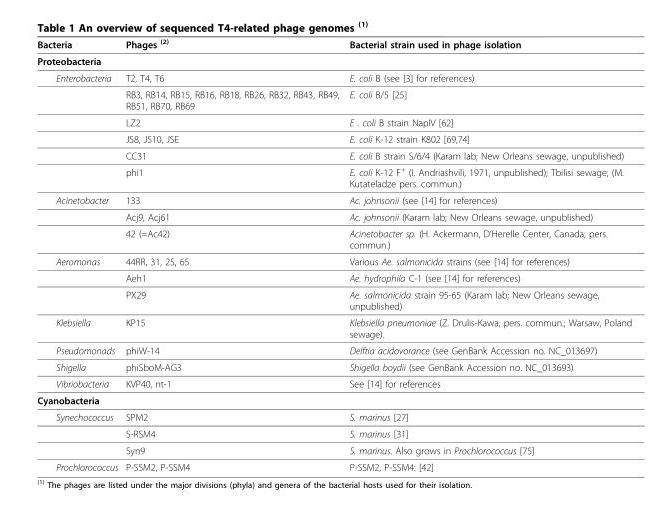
<table><thead><tr><td>Bacteria</td><td>Phages <sup>(2)</sup></td><td>Bacterial strain used in phage isolation</td></tr></thead><tbody><tr><td colspan="3">Proteobacteria</td></tr><tr><td rowspan="6">Enterobacteria</td><td>T2, T4, T6</td><td>E. coli B (see [3] for references)</td></tr><tr><td>RB3, RB14, RB15, RB16, RB18, RB26, RB32, RB43, RB49, RB51, RB70, RB69</td><td>E. coli B/5 [25]</td></tr><tr><td>LZ2</td><td>E . coli B strain NapIV [62]</td></tr><tr><td>JS8, JS10, JSE</td><td>E. coli K-12 strain K802 [69,74]</td></tr><tr><td>CC31</td><td>E. coli B strain S/6/4 (Karam lab; New Orleans sewage, unpublished)</td></tr><tr><td>phi1</td><td>E. coli K-12 F<sup>+</sup> (I. Andriashvili, 1971, unpublished); Tbilisi sewage; (M. Kutateladze pers. commun.)</td></tr><tr><td rowspan="3">Acinetobacter</td><td>133</td><td>Ac. johnsonii (see [14] for references)</td></tr><tr><td>Acj9, Acj61</td><td>Ac. johnsonii (Karam lab; New Orleans sewage, unpublished)</td></tr><tr><td>42 (=Ac42)</td><td>Acinetobacter sp. (H. Ackermann, D’Herelle Center, Canada; pers. commun.)</td></tr><tr><td rowspan="3">Aeromonas</td><td>44RR, 31, 25, 65</td><td>Various Ae. salmonicida strains (see [14] for references)</td></tr><tr><td>Aeh1</td><td>Ae. hydrophila C-1 (see [14] for references)</td></tr><tr><td>PX29</td><td>Ae. salmonicida strain 95-65 (Karam lab; New Orleans sewage, unpublished)</td></tr><tr><td>Klebsiella</td><td>KP15</td><td>Klebsiella pneumoniae (Z. Drulis-Kawa, pers. commun.; Warsaw, Poland sewage).</td></tr><tr><td>Pseudomonads</td><td>phiW-14</td><td>Delftia acidovorance (see GenBank Accession no. NC_013697)</td></tr><tr><td>Shigella</td><td>phiSboM-AG3</td><td>Shigella boydii (see GenBank Accession no. NC_013693)</td></tr><tr><td>Vibriobacteria</td><td>KVP40, nt-1</td><td>See [14] for references</td></tr><tr><td colspan="3">Cyanobacteria</td></tr><tr><td rowspan="3">Synechococcus</td><td>SPM2</td><td>S. marinus [27]</td></tr><tr><td>S-RSM4</td><td>S. marinus [31]</td></tr><tr><td>Syn9</td><td>S. marinus. Also grows in Prochlorococcus [75]</td></tr><tr><td>Prochlorococcus</td><td>P-SSM2, P-SSM4</td><td>P-SSM2, P-SSM4: [42]</td></tr></tbody></table>